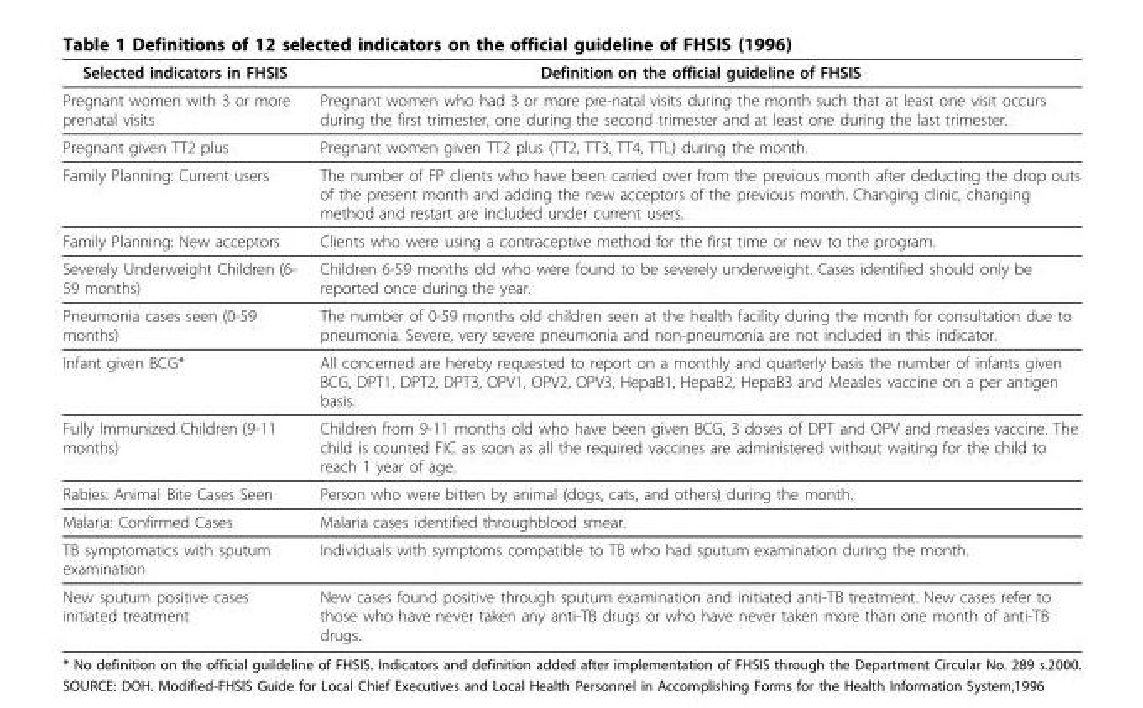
<table><thead><tr><td>Selected indicators in FHSIS</td><td>Definition on the official guideline of FHSIS</td></tr></thead><tbody><tr><td>Pregnant women with 3 or more prenatal visits</td><td>Pregnant women who had 3 or more pre-natal visits during the month such that at least one visit occurs during the first trimester, one during the second trimester and at least one during the last trimester.</td></tr><tr><td>Pregnant given TT2 plus</td><td>Pregnant women given TT2 plus (TT2, TT3, TT4, TTL) during the month.</td></tr><tr><td>Family Planning: Current users</td><td>The number of FP clients who have been carried over from the previous month after deducting the drop outs of the present month and adding the new acceptors of the previous month. Changing clinic, changing method and restart are included under current users.</td></tr><tr><td>Family Planning: New acceptors</td><td>Clients who were using a contraceptive method for the first time or new to the program.</td></tr><tr><td>Severely Underweight Children (6- 59 months)</td><td>Children 6-59 months old who were found to be severely underweight. Cases identified should only be reported once during the year.</td></tr><tr><td>Pneumonia cases seen (0-59 months)</td><td>The number of 0-59 months old children seen at the health facility during the month for consultation due to pneumonia. Severe, very severe pneumonia and non-pneumonia are not included in this indicator.</td></tr><tr><td>Infant given BCG*</td><td>All concerned are hereby requested to report on a monthly and quarterly basis the number of infants given BCG, DPT1, DPT2, DPT3, OPV1, OPV2, OPV3, HepaB1, HepaB2, HepaB3 and Measles vaccine on a per antigen basis.</td></tr><tr><td>Fully Immunized Children (9-11 months)</td><td>Children from 9-11 months old who have been given BCG, 3 doses of DPT and OPV and measles vaccine. The child is counted FIC as soon as all the required vaccines are administered without waiting for the child to reach 1 year of age.</td></tr><tr><td>Rabies: Animal Bite Cases Seen</td><td>Person who were bitten by animal (dogs, cats, and others) during the month.</td></tr><tr><td>Malaria: Confirmed Cases</td><td>Malaria cases identified throughblood smear.</td></tr><tr><td>TB symptomatics with sputum examination</td><td>Individuals with symptoms compatible to TB who had sputum examination during the month.</td></tr><tr><td>New sputum positive cases initiated treatment</td><td>New cases found positive through sputum examination and initiated anti-TB treatment. New cases refer to those who have never taken any anti-TB drugs or who have never taken more than one month of anti-TB drugs.</td></tr></tbody></table>